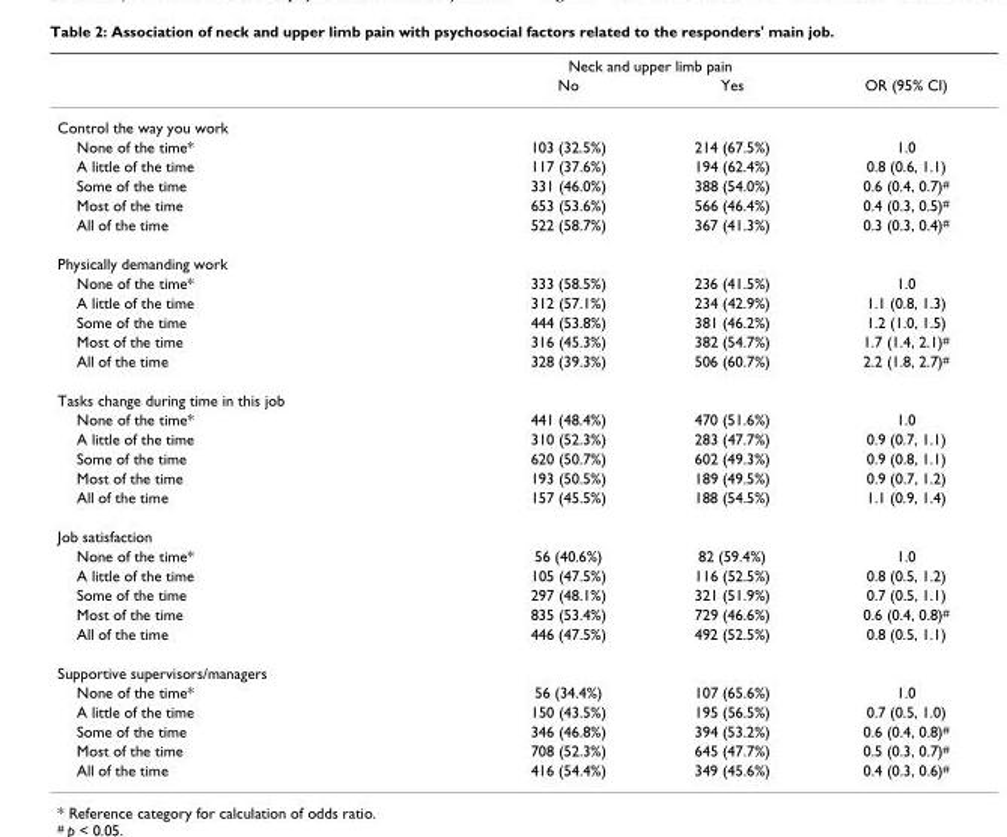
<table><thead><tr><td rowspan="2"></td><td colspan="2">Neck and upper limb pain</td><td rowspan="2">OR (95% CI)</td></tr><tr><td>No</td><td>Yes</td></tr></thead><tbody><tr><td colspan="4">Control the way you work</td></tr><tr><td>None of the time*</td><td>103 (32.5%)</td><td>214 (67.5%)</td><td>1.0</td></tr><tr><td>A little of the time</td><td>117 (37.6%)</td><td>194 (62.4%)</td><td>0.8 (0.6, 1.1)</td></tr><tr><td>Some of the time</td><td>331 (46.0%)</td><td>388 (54.0%)</td><td>0.6 (0.4, 0.7)#</td></tr><tr><td>Most of the time</td><td>653 (53.6%)</td><td>566 (46.4%)</td><td>0.4 (0.3, 0.5)#</td></tr><tr><td>All of the time</td><td>522 (58.7%)</td><td>367 (41.3%)</td><td>0.3 (0.3, 0.4)#</td></tr><tr><td colspan="4">Physically demanding work</td></tr><tr><td>None of the time*</td><td>333 (58.5%)</td><td>236 (41.5%)</td><td>1.0</td></tr><tr><td>A little of the time</td><td>312 (57.1%)</td><td>234 (42.9%)</td><td>1.1 (0.8, 1.3)</td></tr><tr><td>Some of the time</td><td>444 (53.8%)</td><td>381 (46.2%)</td><td>1.2 (1.0, 1.5)</td></tr><tr><td>Most of the time</td><td>316 (45.3%)</td><td>382 (54.7%)</td><td>1.7 (1.4, 2.1)#</td></tr><tr><td>All of the time</td><td>328 (39.3%)</td><td>506 (60.7%)</td><td>2.2 (1.8, 2.7)#</td></tr><tr><td colspan="4">Tasks change during time in this job</td></tr><tr><td>None of the time*</td><td>441 (48.4%)</td><td>470 (51.6%)</td><td>1.0</td></tr><tr><td>A little of the time</td><td>310 (52.3%)</td><td>283 (47.7%)</td><td>0.9 (0.7, 1.1)</td></tr><tr><td>Some of the time</td><td>620 (50.7%)</td><td>602 (49.3%)</td><td>0.9 (0.8, 1.1)</td></tr><tr><td>Most of the time</td><td>193 (50.5%)</td><td>189 (49.5%)</td><td>0.9 (0.7, 1.2)</td></tr><tr><td>All of the time</td><td>157 (45.5%)</td><td>188 (54.5%)</td><td>1.1 (0.9, 1.4)</td></tr><tr><td colspan="4">Job satisfaction</td></tr><tr><td>None of the time*</td><td>56 (40.6%)</td><td>82 (59.4%)</td><td>1.0</td></tr><tr><td>A little of the time</td><td>105 (47.5%)</td><td>116 (52.5%)</td><td>0.8 (0.5, 1.2)</td></tr><tr><td>Some of the time</td><td>297 (48.1%)</td><td>321 (51.9%)</td><td>0.7 (0.5, 1.1)</td></tr><tr><td>Most of the time</td><td>835 (53.4%)</td><td>729 (46.6%)</td><td>0.6 (0.4, 0.8)#</td></tr><tr><td>All of the time</td><td>446 (47.5%)</td><td>492 (52.5%)</td><td>0.8 (0.5, 1.1)</td></tr><tr><td colspan="4">Supportive supervisors/managers</td></tr><tr><td>None of the time*</td><td>56 (34.4%)</td><td>107 (65.6%)</td><td>1.0</td></tr><tr><td>A little of the time</td><td>150 (43.5%)</td><td>195 (56.5%)</td><td>0.7 (0.5, 1.0)</td></tr><tr><td>Some of the time</td><td>346 (46.8%)</td><td>394 (53.2%)</td><td>0.6 (0.4, 0.8)#</td></tr><tr><td>Most of the time</td><td>708 (52.3%)</td><td>645 (47.7%)</td><td>0.5 (0.3, 0.7)#</td></tr><tr><td>All of the time</td><td>416 (54.4%)</td><td>349 (45.6%)</td><td>0.4 (0.3, 0.6)#</td></tr></tbody></table>